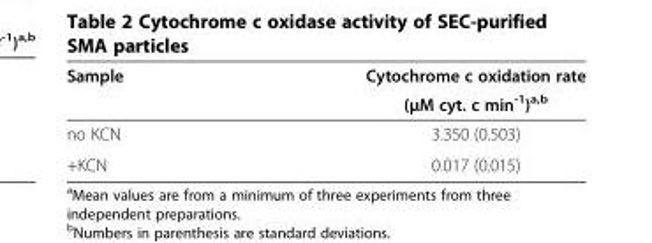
<table><thead><tr><td rowspan="2">Sample</td><td rowspan="2">Cytochrome c oxidation rate (μM cyt. c min<sup>-1</sup>)<sup>a,b</sup></td></tr><tr></tr></thead><tbody><tr><td>no KCN</td><td>3.350 (0.503)</td></tr><tr><td>+KCN</td><td>0.017 (0.015)</td></tr></tbody></table>